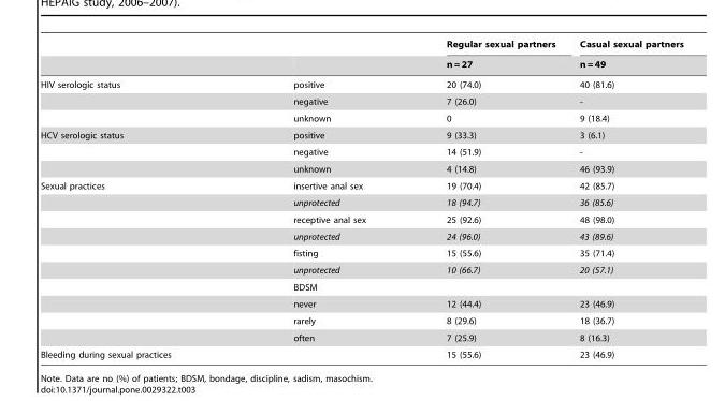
<table><thead><tr><td rowspan="2"></td><td rowspan="2"></td><td rowspan="2">Regular sexual partners n = 27</td><td rowspan="2">Casual sexual partners n = 49</td></tr><tr></tr></thead><tbody><tr><td rowspan="3">HIV serologic status</td><td>positive</td><td>20 (74.0)</td><td>40 (81.6)</td></tr><tr><td>negative</td><td>7 (26.0)</td><td>-</td></tr><tr><td>unknown</td><td>0</td><td>9 (18.4)</td></tr><tr><td rowspan="3">HCV serologic status</td><td>positive</td><td>9 (33.3)</td><td>3 (6.1)</td></tr><tr><td>negative</td><td>14 (51.9)</td><td>-</td></tr><tr><td>unknown</td><td>4 (14.8)</td><td>46 (93.9)</td></tr><tr><td rowspan="10">Sexual practices</td><td>insertive anal sex</td><td>19 (70.4)</td><td>42 (85.7)</td></tr><tr><td>unprotected</td><td>18 (94.7)</td><td>36 (85.6)</td></tr><tr><td>receptive anal sex</td><td>25 (92.6)</td><td>48 (98.0)</td></tr><tr><td>unprotected</td><td>24 (96.0)</td><td>43 (89.6)</td></tr><tr><td>fisting</td><td>15 (55.6)</td><td>35 (71.4)</td></tr><tr><td>unprotected</td><td>10 (66.7)</td><td>20 (57.1)</td></tr><tr><td>BDSM</td><td></td><td></td></tr><tr><td>never</td><td>12 (44.4)</td><td>23 (46.9)</td></tr><tr><td>rarely</td><td>8 (29.6)</td><td>18 (36.7)</td></tr><tr><td>often</td><td>7 (25.9)</td><td>8 (16.3)</td></tr><tr><td>Bleeding during sexual practices</td><td></td><td>15 (55.6)</td><td>23 (46.9)</td></tr></tbody></table>